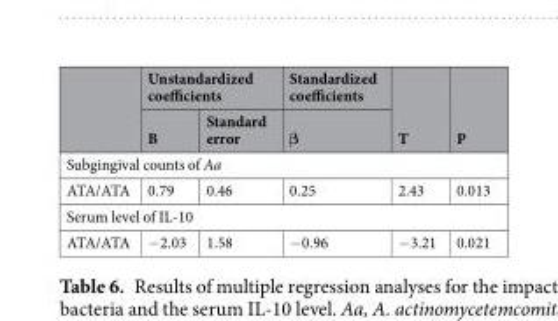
<table><thead><tr><td rowspan="2"></td><td colspan="2">Unstandardized coefficients</td><td rowspan="2">Standardized coefficients β</td><td rowspan="2">T</td><td rowspan="2">P</td></tr><tr><td>B</td><td>Standard error</td></tr></thead><tbody><tr><td colspan="6">Subgingival counts of Aa</td></tr><tr><td>ATA/ATA</td><td>0.79</td><td>0.46</td><td>0.25</td><td>2.43</td><td>0.013</td></tr><tr><td colspan="6">Serum level of IL-10</td></tr><tr><td>ATA/ATA</td><td>−2.03</td><td>1.58</td><td>−0.96</td><td>−3.21</td><td>0.021</td></tr></tbody></table>